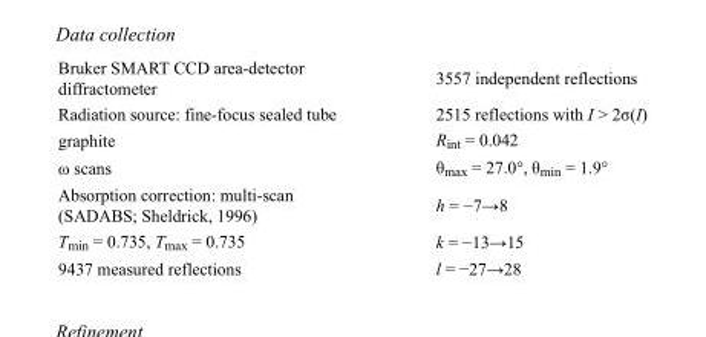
<table><tbody><tr><td>Bruker SMART CCD area-detector diffractometer</td><td>3557 independent reflections</td></tr><tr><td>Radiation source: fine-focus sealed tube</td><td>2515 reflections with I &gt; 2σ(I)</td></tr><tr><td>graphite</td><td>R<sub>int</sub> = 0.042</td></tr><tr><td>ω scans</td><td>θ<sub>max</sub> = 27.0°, θ<sub>min</sub> = 1.9°</td></tr><tr><td>Absorption correction: multi-scan (SADABS; Sheldrick, 1996)</td><td>h = −7→8</td></tr><tr><td>T<sub>min</sub> = 0.735, T<sub>max</sub> = 0.735</td><td>k = −13→15</td></tr><tr><td>9437 measured reflections</td><td>l = −27→28</td></tr></tbody></table>